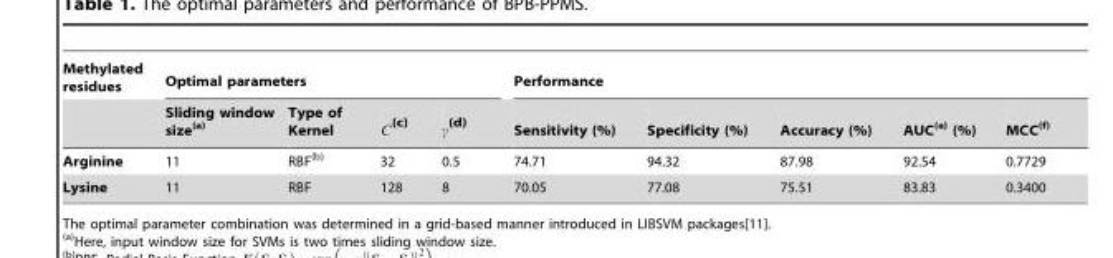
<table><thead><tr><td rowspan="2">Methylated residues</td><td colspan="4">Optimal parameters</td><td colspan="5">Performance</td></tr><tr><td>Sliding window size(a)</td><td>Type of Kernel</td><td>C(c)</td><td>c(d)</td><td>Sensitivity (%)</td><td>Specificity (%)</td><td>Accuracy (%)</td><td>AUC(e) (%)</td><td>MCC(f)</td></tr></thead><tbody><tr><td>Arginine</td><td>11</td><td>RBF(b)</td><td>32</td><td>0.5</td><td>74.71</td><td>94.32</td><td>87.98</td><td>92.54</td><td>0.7729</td></tr><tr><td>Lysine</td><td>11</td><td>RBF</td><td>128</td><td>8</td><td>70.05</td><td>77.08</td><td>75.51</td><td>83.83</td><td>0.3400</td></tr></tbody></table>